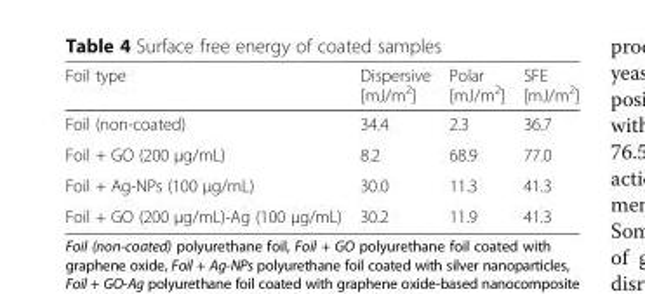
<table><thead><tr><td>Foil type</td><td>Dispersive [mJ/m<sup>2</sup>]</td><td>Polar [mJ/m<sup>2</sup>]</td><td>SFE [mJ/m<sup>2</sup>]</td></tr></thead><tbody><tr><td>Foil (non-coated)</td><td>34.4</td><td>2.3</td><td>36.7</td></tr><tr><td>Foil + GO (200 μg/mL)</td><td>8.2</td><td>68.9</td><td>77.0</td></tr><tr><td>Foil + Ag-NPs (100 μg/mL)</td><td>30.0</td><td>11.3</td><td>41.3</td></tr><tr><td>Foil + GO (200 μg/mL)-Ag (100 μg/mL)</td><td>30.2</td><td>11.9</td><td>41.3</td></tr></tbody></table>